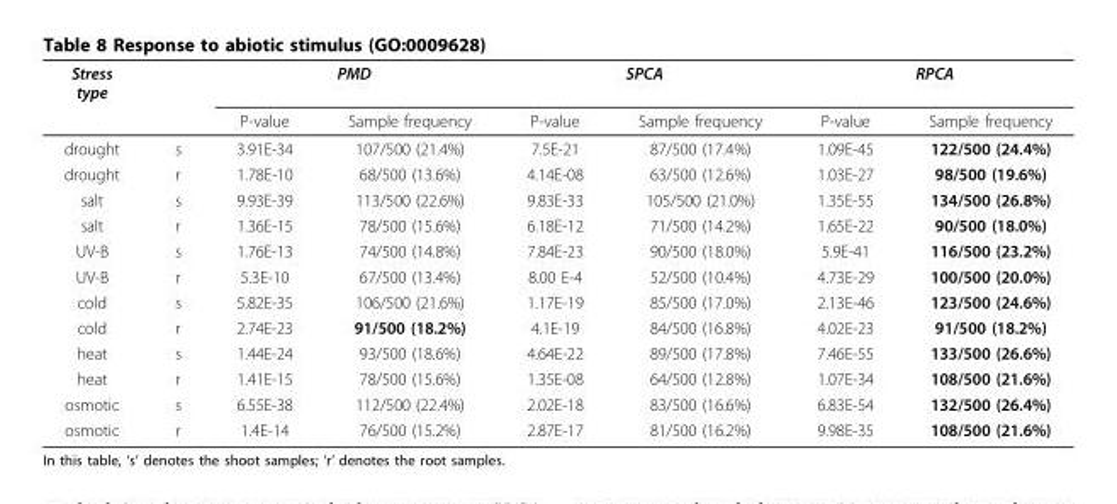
<table><thead><tr><td rowspan="2">Stress type</td><td rowspan="2"></td><td colspan="2">PMD</td><td colspan="2">SPCA</td><td colspan="2">RPCA</td></tr><tr><td>P-value</td><td>Sample frequency</td><td>P-value</td><td>Sample frequency</td><td>P-value</td><td>Sample frequency</td></tr></thead><tbody><tr><td>drought</td><td>s</td><td>3.91E-34</td><td>107/500 (21.4%)</td><td>7.5E-21</td><td>87/500 (17.4%)</td><td>1.09E-45</td><td>122/500 (24.4%)</td></tr><tr><td>drought</td><td>r</td><td>1.78E-10</td><td>68/500 (13.6%)</td><td>4.14E-08</td><td>63/500 (12.6%)</td><td>1.03E-27</td><td>98/500 (19.6%)</td></tr><tr><td>salt</td><td>s</td><td>9.93E-39</td><td>113/500 (22.6%)</td><td>9.83E-33</td><td>105/500 (21.0%)</td><td>1.35E-55</td><td>134/500 (26.8%)</td></tr><tr><td>salt</td><td>r</td><td>1.36E-15</td><td>78/500 (15.6%)</td><td>6.18E-12</td><td>71/500 (14.2%)</td><td>1.65E-22</td><td>90/500 (18.0%)</td></tr><tr><td>UV-B</td><td>s</td><td>1.76E-13</td><td>74/500 (14.8%)</td><td>7.84E-23</td><td>90/500 (18.0%)</td><td>5.9E-41</td><td>116/500 (23.2%)</td></tr><tr><td>UV-B</td><td>r</td><td>5.3E-10</td><td>67/500 (13.4%)</td><td>8.00 E-4</td><td>52/500 (10.4%)</td><td>4.73E-29</td><td>100/500 (20.0%)</td></tr><tr><td>cold</td><td>s</td><td>5.82E-35</td><td>106/500 (21.6%)</td><td>1.17E-19</td><td>85/500 (17.0%)</td><td>2.13E-46</td><td>123/500 (24.6%)</td></tr><tr><td>cold</td><td>r</td><td>2.74E-23</td><td>91/500 (18.2%)</td><td>4.1E-19</td><td>84/500 (16.8%)</td><td>4.02E-23</td><td>91/500 (18.2%)</td></tr><tr><td>heat</td><td>s</td><td>1.44E-24</td><td>93/500 (18.6%)</td><td>4.64E-22</td><td>89/500 (17.8%)</td><td>7.46E-55</td><td>133/500 (26.6%)</td></tr><tr><td>heat</td><td>r</td><td>1.41E-15</td><td>78/500 (15.6%)</td><td>1.35E-08</td><td>64/500 (12.8%)</td><td>1.07E-34</td><td>108/500 (21.6%)</td></tr><tr><td>osmotic</td><td>s</td><td>6.55E-38</td><td>112/500 (22.4%)</td><td>2.02E-18</td><td>83/500 (16.6%)</td><td>6.83E-54</td><td>132/500 (26.4%)</td></tr><tr><td>osmotic</td><td>r</td><td>1.4E-14</td><td>76/500 (15.2%)</td><td>2.87E-17</td><td>81/500 (16.2%)</td><td>9.98E-35</td><td>108/500 (21.6%)</td></tr></tbody></table>